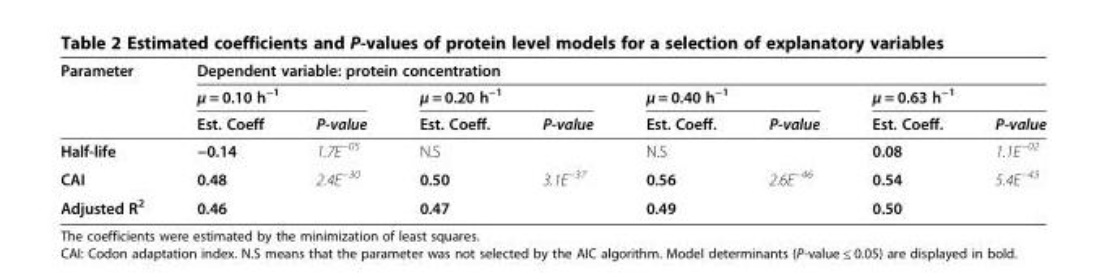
<table><thead><tr><td rowspan="3">Parameter</td><td colspan="8">Dependent variable: protein concentration</td></tr><tr><td colspan="2">μ = 0.10 h<sup>−1</sup></td><td colspan="2">μ = 0.20 h<sup>−1</sup></td><td colspan="2">μ = 0.40 h<sup>−1</sup></td><td colspan="2">μ = 0.63 h<sup>−1</sup></td></tr><tr><td>Est. Coeff</td><td>P-value</td><td>Est. Coeff.</td><td>P-value</td><td>Est. Coeff.</td><td>P-value</td><td>Est. Coeff.</td><td>P-value</td></tr></thead><tbody><tr><td>Half-life</td><td>−0.14</td><td>1.7E<sup>−05</sup></td><td colspan="2">N.S</td><td colspan="2">N.S</td><td>0.08</td><td>1.1E<sup>−02</sup></td></tr><tr><td>CAI</td><td>0.48</td><td>2.4E<sup>−30</sup></td><td>0.50</td><td>3.1E<sup>−37</sup></td><td>0.56</td><td>2.6E<sup>−46</sup></td><td>0.54</td><td>5.4E<sup>−43</sup></td></tr><tr><td>Adjusted R<sup>2</sup></td><td colspan="2">0.46</td><td colspan="2">0.47</td><td colspan="2">0.49</td><td colspan="2">0.50</td></tr></tbody></table>